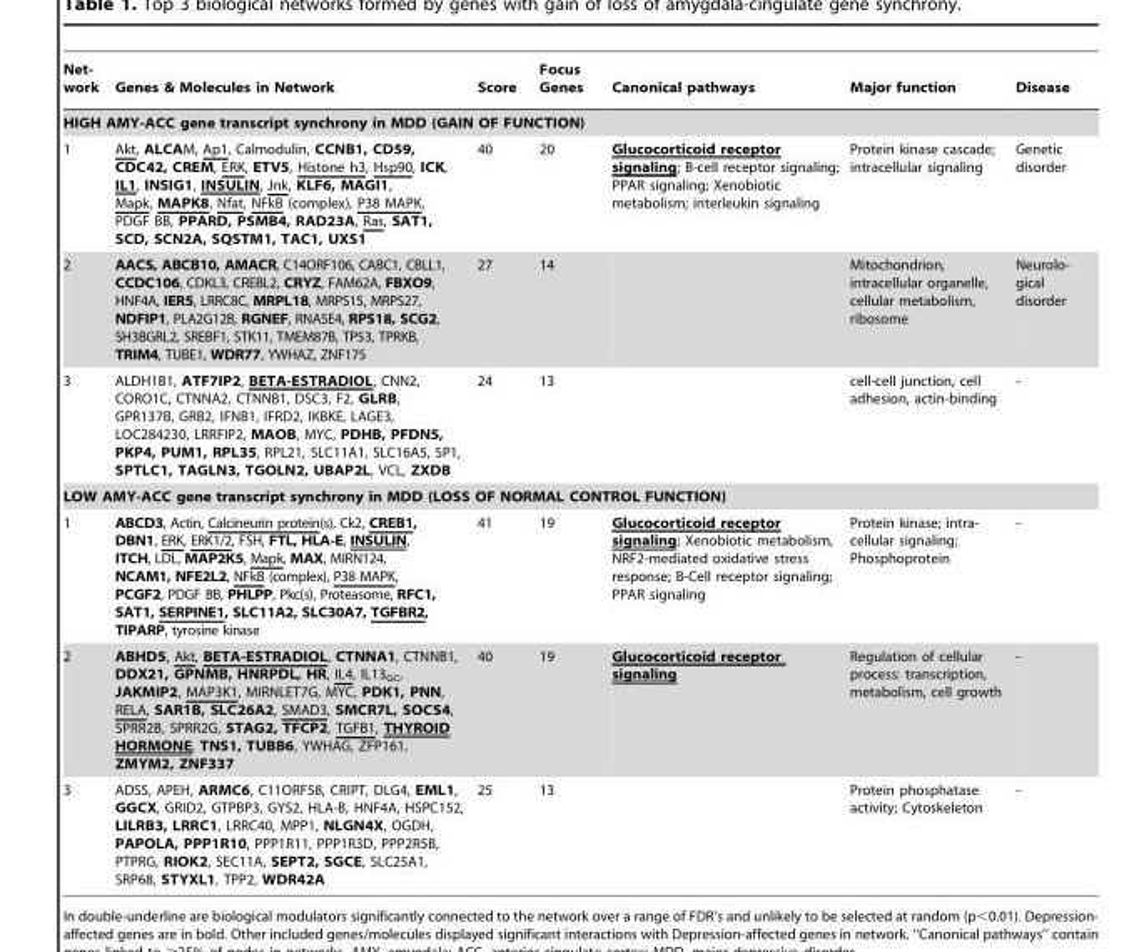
<table><thead><tr><td>Net- work</td><td>Genes &amp; Molecules in Network</td><td>Score</td><td>Focus Genes</td><td>Canonical pathways</td><td>Major function</td><td>Disease</td></tr></thead><tbody><tr><td colspan="7">HIGH AMY-ACC gene transcript synchrony in MDD (GAIN OF FUNCTION)</td></tr><tr><td>1</td><td>Akt, ALCAM, Ap1, Calmodulin, CCNB1, CD59, CDC42, CREM, ERK, ETV5, Histone h3, Hsp90, ICK, IL1, INSIG1, INSULIN, Jnk, KLF6, MAGI1, Mapk, MAPK8, Nfat, NFkB (complex), P38 MAPK, PDGF BB, PPARD, PSMB4, RAD23A, Ras, SAT1, SCD, SCN2A, SQSTM1, TAC1, UXS1</td><td>40</td><td>20</td><td>Glucocorticoid receptor signaling; B-cell receptor signaling; PPAR signaling; Xenobiotic metabolism; interleukin signaling</td><td>Protein kinase cascade; intracellular signaling</td><td>Genetic disorder</td></tr><tr><td>2</td><td>AACS, ABCB10, AMACR, C14ORF106, CABC1, CBLL1, CCDC106, CDKL3, CREBL2, CRYZ, FAM62A, FBXO9, HNF4A, IER5, LRRC8C, MRPL18, MRPS15, MRPS27, NDFIP1, PLA2G12B, RGNEF, RNASE4, RPS18, SCG2, SH3BGRL2, SREBF1, STK11, TMEM87B, TP53, TPRKB, TRIM4, TUBE1, WDR77, YWHAZ, ZNF175</td><td>27</td><td>14</td><td></td><td>Mitochondrion, intracellular organelle, cellular metabolism, ribosome</td><td>Neurolo- gical disorder</td></tr><tr><td>3</td><td>ALDH1B1, ATF7IP2, BETA-ESTRADIOL, CNN2, CORO1C, CTNNA2, CTNNB1, DSC3, F2, GLRB, GPR137B, GRB2, IFNB1, IFRD2, IKBKE, LAGE3, LOC284230, LRRFIP2, MAOB, MYC, PDHB, PFDN5, PKP4, PUM1, RPL35, RPL21, SLC11A1, SLC16A5, SP1, SPTLC1, TAGLN3, TGOLN2, UBAP2L, VCL, ZXDB</td><td>24</td><td>13</td><td></td><td>cell-cell junction, cell adhesion, actin-binding</td><td>-</td></tr><tr><td colspan="7">LOW AMY-ACC gene transcript synchrony in MDD (LOSS OF NORMAL CONTROL FUNCTION)</td></tr><tr><td>1</td><td>ABCD3, Actin, Calcineurin protein(s), Ck2, CREB1, DBN1, ERK, ERK1/2, FSH, FTL, HLA-E, INSULIN, ITCH, LDL, MAP2K5, Mapk, MAX, MIRN124, NCAM1, NFE2L2, NFkB (complex), P38 MAPK, PCGF2, PDGF BB, PHLPP, Pkc(s), Proteasome, RFC1, SAT1, SERPINE1, SLC11A2, SLC30A7, TGFBR2, TIPARP, tyrosine kinase</td><td>41</td><td>19</td><td>Glucocorticoid receptor signaling; Xenobiotic metabolism, NRF2-mediated oxidative stress response; B-Cell receptor signaling; PPAR signaling</td><td>Protein kinase; intra- cellular signaling; Phosphoprotein</td><td>-</td></tr><tr><td>2</td><td>ABHD5, Akt, BETA-ESTRADIOL, CTNNA1, CTNNB1, DDX21, GPNMB, HNRPDL, HR, IL4, IL13<sub>GC</sub>, JAKMIP2, MAP3K1, MIRNLET7G, MYC, PDK1, PNN, RELA, SAR1B, SLC26A2, SMAD3, SMCR7L, SOCS4, SPRR2B, SPRR2G, STAG2, TFCP2, TGFB1, THYROID HORMONE, TNS1, TUBB6, YWHAG, ZFP161, ZMYM2, ZNF337</td><td>40</td><td>19</td><td>Glucocorticoid receptor signaling</td><td>Regulation of cellular process: transcription, metabolism, cell growth</td><td>-</td></tr><tr><td>3</td><td>ADSS, APEH, ARMC6, C11ORF58, CRIPT, DLG4, EML1, GGCX, GRID2, GTPBP3, GYS2, HLA-B, HNF4A, HSPC152, LILRB3, LRRC1, LRRC40, MPP1, NLGN4X, OGDH, PAPOLA, PPP1R10, PPP1R11, PPP1R3D, PPP2R5B, PTPRG, RIOK2, SEC11A, SEPT2, SGCE, SLC25A1, SRP68, STYXL1, TPP2, WDR42A</td><td>25</td><td>13</td><td></td><td>Protein phosphatase activity; Cytoskeleton</td><td>-</td></tr></tbody></table>